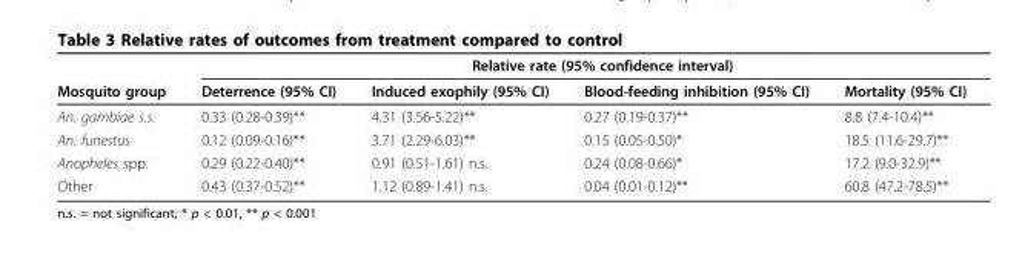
<table><thead><tr><td rowspan="2">Mosquito group</td><td rowspan="2">Deterrence (95% CI)</td><td colspan="2">Relative rate (95% confidence interval)</td><td rowspan="2">Mortality (95% CI)</td></tr><tr><td>Induced exophily (95% CI)</td><td>Blood-feeding inhibition (95% CI)</td></tr></thead><tbody><tr><td>An. gambiae s.s.</td><td>0.33 (0.28-0.39)**</td><td>4.31 (3.56-5.22)**</td><td>0.27 (0.19-0.37)**</td><td>8.8 (7.4-10.4)**</td></tr><tr><td>An. funestus</td><td>0.12 (0.09-0.16)**</td><td>3.71 (2.29-6.03)**</td><td>0.15 (0.05-0.50)*</td><td>18.5 (11.6-29.7)**</td></tr><tr><td>Anopheles spp.</td><td>0.29 (0.22-0.40)**</td><td>0.91 (0.51-1.61) n.s.</td><td>0.24 (0.08-0.66)*</td><td>17.2 (9.0-32.9)**</td></tr><tr><td>Other</td><td>0.43 (0.37-0.52)**</td><td>1.12 (0.89-1.41) n.s.</td><td>0.04 (0.01-0.12)**</td><td>60.8 (47.2-78.5)**</td></tr></tbody></table>